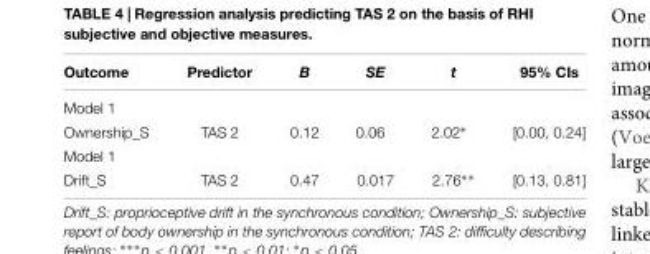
<table><thead><tr><td>Outcome</td><td>Predictor</td><td>B</td><td>SE</td><td>t</td><td>95% CIs</td></tr></thead><tbody><tr><td colspan="6">Model 1</td></tr><tr><td>Ownership_S</td><td>TAS 2</td><td>0.12</td><td>0.06</td><td>2.02∗</td><td>[0.00, 0.24]</td></tr><tr><td colspan="6">Model 1</td></tr><tr><td>Drift_S</td><td>TAS 2</td><td>0.47</td><td>0.017</td><td>2.76∗∗</td><td>[0.13, 0.81]</td></tr></tbody></table>